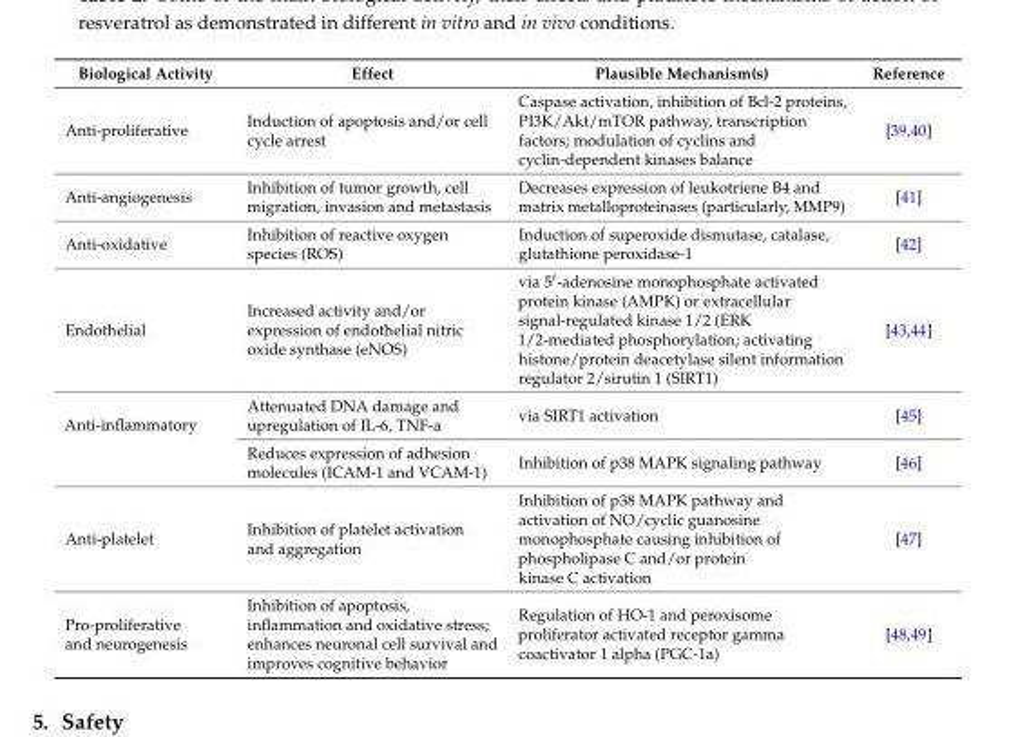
<table><thead><tr><td>Biological Activity</td><td>Effect</td><td>Plausible Mechanism(s)</td><td>Reference</td></tr></thead><tbody><tr><td>Anti-proliferative</td><td>Induction of apoptosis and/or cell cycle arrest</td><td>Caspase activation, inhibition of Bcl-2 proteins, PI3K/Akt/mTOR pathway, transcription factors; modulation of cyclins and cyclin-dependent kinases balance</td><td>[39,40]</td></tr><tr><td>Anti-angiogenesis</td><td>Inhibition of tumor growth, cell migration, invasion and metastasis</td><td>Decreases expression of leukotriene B4 and matrix metalloproteinases (particularly, MMP9)</td><td>[41]</td></tr><tr><td>Anti-oxidative</td><td>Inhibition of reactive oxygen species (ROS)</td><td>Induction of superoxide dismutase, catalase, glutathione peroxidase-1</td><td>[42]</td></tr><tr><td>Endothelial</td><td>Increased activity and/or expression of endothelial nitric oxide synthase (eNOS)</td><td>via 5′-adenosine monophosphate activated protein kinase (AMPK) or extracellular signal-regulated kinase 1/2 (ERK 1/2-mediated phosphorylation; activating histone/protein deacetylase silent information regulator 2/sirutin 1 (SIRT1)</td><td>[43,44]</td></tr><tr><td rowspan="2">Anti-inflammatory</td><td>Attenuated DNA damage and upregulation of IL-6, TNF-a</td><td>via SIRT1 activation</td><td>[45]</td></tr><tr><td>Reduces expression of adhesion molecules (ICAM-1 and VCAM-1)</td><td>Inhibition of p38 MAPK signaling pathway</td><td>[46]</td></tr><tr><td>Anti-platelet</td><td>Inhibition of platelet activation and aggregation</td><td>Inhibition of p38 MAPK pathway and activation of NO/cyclic guanosine monophosphate causing inhibition of phospholipase C and/or protein kinase C activation</td><td>[47]</td></tr><tr><td>Pro-proliferative and neurogenesis</td><td>Inhibition of apoptosis, inflammation and oxidative stress; enhances neuronal cell survival and improves cognitive behavior</td><td>Regulation of HO-1 and peroxisome proliferator activated receptor gamma coactivator 1 alpha (PGC-1a)</td><td>[48,49]</td></tr></tbody></table>